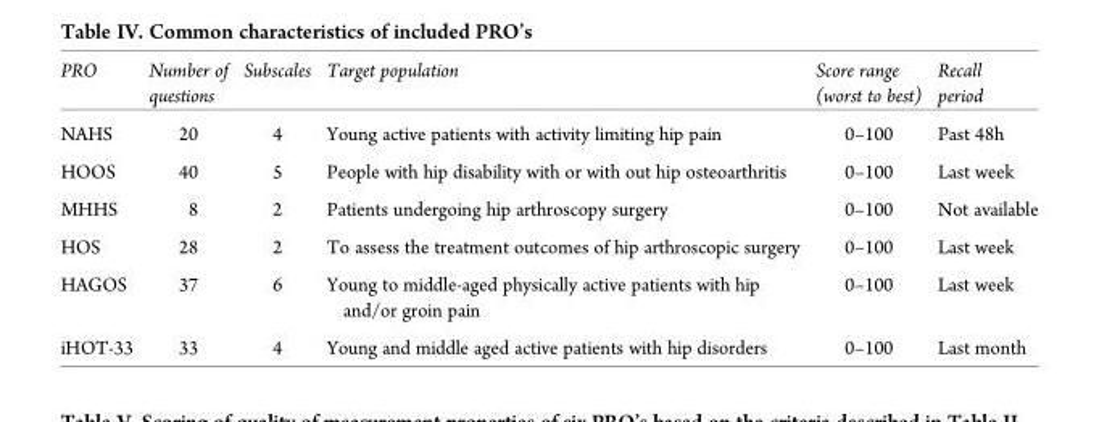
<table><thead><tr><td>PRO</td><td>Number of questions</td><td>Subscales</td><td>Target population</td><td>Score range (worst to best)</td><td>Recall period</td></tr></thead><tbody><tr><td>NAHS</td><td>20</td><td>4</td><td>Young active patients with activity limiting hip pain</td><td>0–100</td><td>Past 48h</td></tr><tr><td>HOOS</td><td>40</td><td>5</td><td>People with hip disability with or with out hip osteoarthritis</td><td>0–100</td><td>Last week</td></tr><tr><td>MHHS</td><td>8</td><td>2</td><td>Patients undergoing hip arthroscopy surgery</td><td>0–100</td><td>Not available</td></tr><tr><td>HOS</td><td>28</td><td>2</td><td>To assess the treatment outcomes of hip arthroscopic surgery</td><td>0–100</td><td>Last week</td></tr><tr><td>HAGOS</td><td>37</td><td>6</td><td>Young to middle-aged physically active patients with hip and/or groin pain</td><td>0–100</td><td>Last week</td></tr><tr><td>iHOT-33</td><td>33</td><td>4</td><td>Young and middle aged active patients with hip disorders</td><td>0–100</td><td>Last month</td></tr></tbody></table>